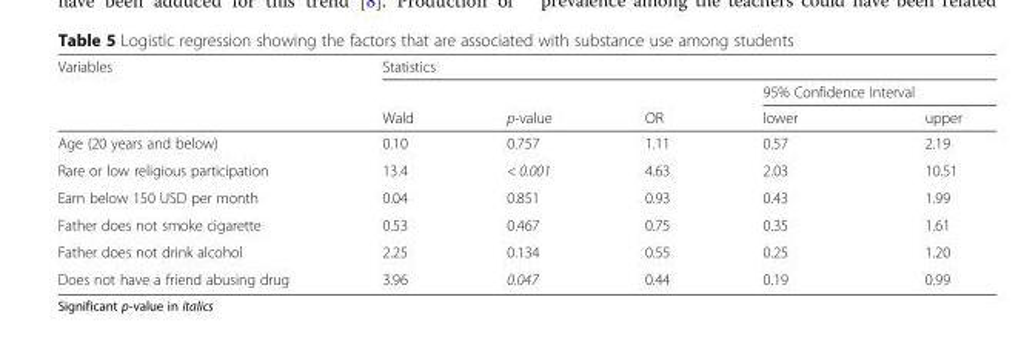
<table><thead><tr><td rowspan="3">Variables</td><td colspan="5">Statistics</td></tr><tr><td rowspan="2">Wald</td><td rowspan="2">p-value</td><td rowspan="2">OR</td><td colspan="2">95% Confidence Interval</td></tr><tr><td>lower</td><td>upper</td></tr></thead><tbody><tr><td>Age (20 years and below)</td><td>0.10</td><td>0.757</td><td>1.11</td><td>0.57</td><td>2.19</td></tr><tr><td>Rare or low religious participation</td><td>13.4</td><td>&lt; 0.001</td><td>4.63</td><td>2.03</td><td>10.51</td></tr><tr><td>Earn below 150 USD per month</td><td>0.04</td><td>0.851</td><td>0.93</td><td>0.43</td><td>1.99</td></tr><tr><td>Father does not smoke cigarette</td><td>0.53</td><td>0.467</td><td>0.75</td><td>0.35</td><td>1.61</td></tr><tr><td>Father does not drink alcohol</td><td>2.25</td><td>0.134</td><td>0.55</td><td>0.25</td><td>1.20</td></tr><tr><td>Does not have a friend abusing drug</td><td>3.96</td><td>0.047</td><td>0.44</td><td>0.19</td><td>0.99</td></tr></tbody></table>